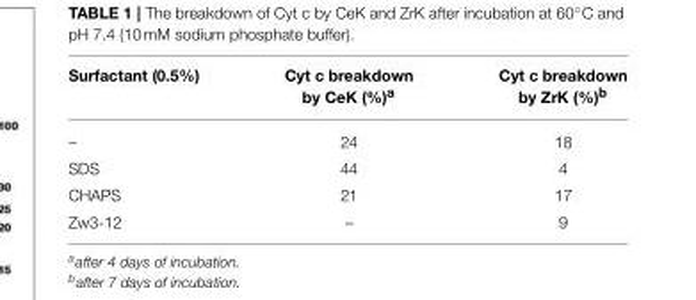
<table><thead><tr><td>Surfactant (0.5%)</td><td>Cyt c breakdown by CeK (%)<sup>a</sup></td><td>Cyt c breakdown by ZrK (%)<sup>b</sup></td></tr></thead><tbody><tr><td>–</td><td>24</td><td>18</td></tr><tr><td>SDS</td><td>44</td><td>4</td></tr><tr><td>CHAPS</td><td>21</td><td>17</td></tr><tr><td>Zw3-12</td><td>–</td><td>9</td></tr></tbody></table>